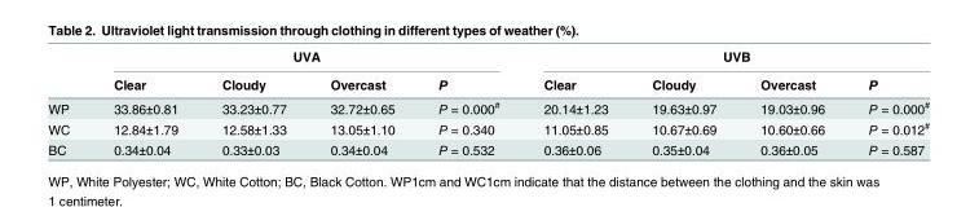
<table><thead><tr><td rowspan="2"></td><td colspan="4">UVA</td><td colspan="4">UVB</td></tr><tr><td>Clear</td><td>Cloudy</td><td>Overcast</td><td>P</td><td>Clear</td><td>Cloudy</td><td>Overcast</td><td>P</td></tr></thead><tbody><tr><td>WP</td><td>33.86±0.81</td><td>33.23±0.77</td><td>32.72±0.65</td><td>P = 0.000<sup>#</sup></td><td>20.14±1.23</td><td>19.63±0.97</td><td>19.03±0.96</td><td>P = 0.000<sup>#</sup></td></tr><tr><td>WC</td><td>12.84±1.79</td><td>12.58±1.33</td><td>13.05±1.10</td><td>P = 0.340</td><td>11.05±0.85</td><td>10.67±0.69</td><td>10.60±0.66</td><td>P = 0.012<sup>#</sup></td></tr><tr><td>BC</td><td>0.34±0.04</td><td>0.33±0.03</td><td>0.34±0.04</td><td>P = 0.532</td><td>0.36±0.06</td><td>0.35±0.04</td><td>0.36±0.05</td><td>P = 0.587</td></tr></tbody></table>